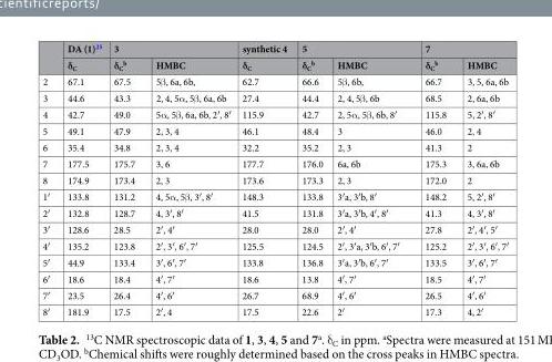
<table><thead><tr><td rowspan="2"></td><td rowspan="2">DA (1)<sup>25</sup> δ<sub>C</sub></td><td colspan="2">3</td><td rowspan="2">synthetic 4 δ<sub>C</sub></td><td colspan="2">5</td><td colspan="2">7</td></tr><tr><td>δ<sub>C</sub> <sup>b</sup></td><td>HMBC</td><td>δ<sub>C</sub> <sup>b</sup></td><td>HMBC</td><td>δ<sub>C</sub> <sup>b</sup></td><td>HMBC</td></tr></thead><tbody><tr><td>2</td><td>67.1</td><td>67.5</td><td>5β, 6a, 6b,</td><td>62.7</td><td>66.6</td><td>5β, 6b,</td><td>66.7</td><td>3, 5, 6a, 6b</td></tr><tr><td>3</td><td>44.6</td><td>43.3</td><td>2, 4, 5α, 5β, 6a, 6b</td><td>27.4</td><td>44.4</td><td>2, 4, 5β, 6b</td><td>68.5</td><td>2, 6a, 6b</td></tr><tr><td>4</td><td>42.7</td><td>49.0</td><td>5α, 5β, 6a, 6b, 2′, 8′</td><td>115.9</td><td>42.7</td><td>2, 5α, 5β, 6b, 8′</td><td>115.8</td><td>5, 2′, 8′</td></tr><tr><td>5</td><td>49.1</td><td>47.9</td><td>2, 3, 4</td><td>46.1</td><td>48.4</td><td>3</td><td>46.0</td><td>2, 4</td></tr><tr><td>6</td><td>35.4</td><td>34.8</td><td>2, 3, 4</td><td>32.2</td><td>35.2</td><td>2, 3</td><td>41.3</td><td>2</td></tr><tr><td>7</td><td>177.5</td><td>175.7</td><td>3, 6</td><td>177.7</td><td>176.0</td><td>6a, 6b</td><td>175.3</td><td>3, 6a, 6b</td></tr><tr><td>8</td><td>174.9</td><td>173.4</td><td>2, 3</td><td>173.6</td><td>173.3</td><td>2, 3</td><td>172.0</td><td>2</td></tr><tr><td>1′</td><td>133.8</td><td>131.2</td><td>4, 5α, 5β, 3′, 8′</td><td>148.3</td><td>133.8</td><td>3′a, 3′b, 8′</td><td>148.2</td><td>5, 2′, 8′</td></tr><tr><td>2′</td><td>132.8</td><td>128.7</td><td>4, 3′, 8′</td><td>41.5</td><td>131.8</td><td>3′a, 3′b, 4′, 8′</td><td>41.3</td><td>4, 3′, 8′</td></tr><tr><td>3′</td><td>128.6</td><td>28.5</td><td>2′, 4′</td><td>28.0</td><td>28.0</td><td>2′, 4′</td><td>27.8</td><td>2′, 4′, 5′</td></tr><tr><td>4′</td><td>135.2</td><td>123.8</td><td>2′, 3′, 6′, 7′</td><td>125.5</td><td>124.5</td><td>2′, 3′a, 3′b, 6′, 7′</td><td>125.2</td><td>2′, 3′, 6′, 7′</td></tr><tr><td>5′</td><td>44.9</td><td>133.4</td><td>3′, 6′, 7′</td><td>133.8</td><td>136.8</td><td>3′a, 3′b, 6′, 7′</td><td>133.5</td><td>3′, 6′, 7′</td></tr><tr><td>6′</td><td>18.6</td><td>18.4</td><td>4′, 7′</td><td>18.6</td><td>13.8</td><td>4′, 7′</td><td>18.5</td><td>4′, 7′</td></tr><tr><td>7′</td><td>23.5</td><td>26.4</td><td>4′, 6′</td><td>26.7</td><td>68.9</td><td>4′, 6′</td><td>26.5</td><td>4′, 6′</td></tr><tr><td>8′</td><td>181.9</td><td>17.5</td><td>2′, 4</td><td>17.5</td><td>22.6</td><td>2′</td><td>17.3</td><td>4, 2′</td></tr></tbody></table>